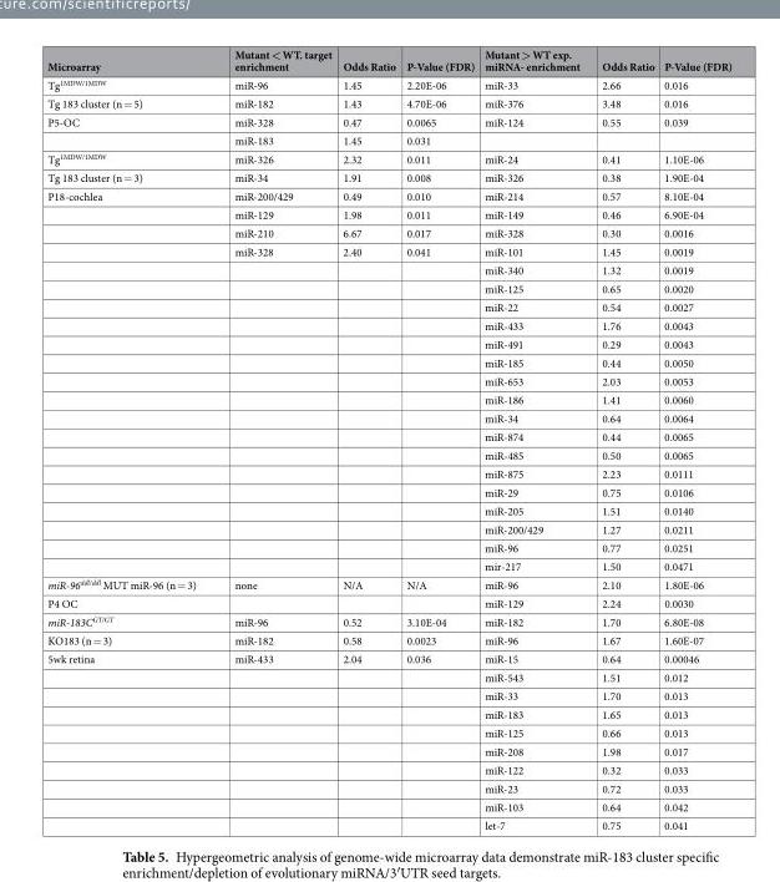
<table><thead><tr><td>Microarray</td><td>Mutant &lt; WT. target enrichment</td><td>Odds Ratio</td><td>P-Value (FDR)</td><td>Mutant &gt; WT exp. miRNA- enrichment</td><td>Odds Ratio</td><td>P-Value (FDR)</td></tr></thead><tbody><tr><td>Tg<sup>1MDW/1MDW</sup></td><td>miR-96</td><td>1.45</td><td>2.20E-06</td><td>miR-33</td><td>2.66</td><td>0.016</td></tr><tr><td>Tg 183 cluster (n = 5)</td><td>miR-182</td><td>1.43</td><td>4.70E-06</td><td>miR-376</td><td>3.48</td><td>0.016</td></tr><tr><td rowspan="2">P5-OC</td><td>miR-328</td><td>0.47</td><td>0.0065</td><td>miR-124</td><td>0.55</td><td>0.039</td></tr><tr><td>miR-183</td><td>1.45</td><td>0.031</td><td></td><td></td><td></td></tr><tr><td>Tg<sup>1MDW/1MDW</sup></td><td>miR-326</td><td>2.32</td><td>0.011</td><td>miR-24</td><td>0.41</td><td>1.10E-06</td></tr><tr><td>Tg 183 cluster (n = 3)</td><td>miR-34</td><td>1.91</td><td>0.008</td><td>miR-326</td><td>0.38</td><td>1.90E-04</td></tr><tr><td rowspan="21">P18-cochlea</td><td>miR-200/429</td><td>0.49</td><td>0.010</td><td>miR-214</td><td>0.57</td><td>8.10E-04</td></tr><tr><td>miR-129</td><td>1.98</td><td>0.011</td><td>miR-149</td><td>0.46</td><td>6.90E-04</td></tr><tr><td>miR-210</td><td>6.67</td><td>0.017</td><td>miR-328</td><td>0.30</td><td>0.0016</td></tr><tr><td>miR-328</td><td>2.40</td><td>0.041</td><td>miR-101</td><td>1.45</td><td>0.0019</td></tr><tr><td></td><td></td><td></td><td>miR-340</td><td>1.32</td><td>0.0019</td></tr><tr><td></td><td></td><td></td><td>miR-125</td><td>0.65</td><td>0.0020</td></tr><tr><td></td><td></td><td></td><td>miR-22</td><td>0.54</td><td>0.0027</td></tr><tr><td></td><td></td><td></td><td>miR-433</td><td>1.76</td><td>0.0043</td></tr><tr><td></td><td></td><td></td><td>miR-491</td><td>0.29</td><td>0.0043</td></tr><tr><td></td><td></td><td></td><td>miR-185</td><td>0.44</td><td>0.0050</td></tr><tr><td></td><td></td><td></td><td>miR-653</td><td>2.03</td><td>0.0053</td></tr><tr><td></td><td></td><td></td><td>miR-186</td><td>1.41</td><td>0.0060</td></tr><tr><td></td><td></td><td></td><td>miR-34</td><td>0.64</td><td>0.0064</td></tr><tr><td></td><td></td><td></td><td>miR-874</td><td>0.44</td><td>0.0065</td></tr><tr><td></td><td></td><td></td><td>miR-485</td><td>0.50</td><td>0.0065</td></tr><tr><td></td><td></td><td></td><td>miR-875</td><td>2.23</td><td>0.0111</td></tr><tr><td></td><td></td><td></td><td>miR-29</td><td>0.75</td><td>0.0106</td></tr><tr><td></td><td></td><td></td><td>miR-205</td><td>1.51</td><td>0.0140</td></tr><tr><td></td><td></td><td></td><td>miR-200/429</td><td>1.27</td><td>0.0211</td></tr><tr><td></td><td></td><td></td><td>miR-96</td><td>0.77</td><td>0.0251</td></tr><tr><td></td><td></td><td></td><td>mir-217</td><td>1.50</td><td>0.0471</td></tr><tr><td>miR-96<sup>ddl/ddl</sup> MUT miR-96 (n = 3)</td><td>none</td><td>N/A</td><td>N/A</td><td>miR-96</td><td>2.10</td><td>1.80E-06</td></tr><tr><td>P4 OC</td><td></td><td></td><td></td><td>miR-129</td><td>2.24</td><td>0.0030</td></tr><tr><td>miR-183C<sup>GT/GT</sup></td><td>miR-96</td><td>0.52</td><td>3.10E-04</td><td>miR-182</td><td>1.70</td><td>6.80E-08</td></tr><tr><td>KO183 (n = 3)</td><td>miR-182</td><td>0.58</td><td>0.0023</td><td>miR-96</td><td>1.67</td><td>1.60E-07</td></tr><tr><td rowspan="10">5wk retina</td><td>miR-433</td><td>2.04</td><td>0.036</td><td>miR-15</td><td>0.64</td><td>0.00046</td></tr><tr><td></td><td></td><td></td><td>miR-543</td><td>1.51</td><td>0.012</td></tr><tr><td></td><td></td><td></td><td>miR-33</td><td>1.70</td><td>0.013</td></tr><tr><td></td><td></td><td></td><td>miR-183</td><td>1.65</td><td>0.013</td></tr><tr><td></td><td></td><td></td><td>miR-125</td><td>0.66</td><td>0.013</td></tr><tr><td></td><td></td><td></td><td>miR-208</td><td>1.98</td><td>0.017</td></tr><tr><td></td><td></td><td></td><td>miR-122</td><td>0.32</td><td>0.033</td></tr><tr><td></td><td></td><td></td><td>miR-23</td><td>0.72</td><td>0.033</td></tr><tr><td></td><td></td><td></td><td>miR-103</td><td>0.64</td><td>0.042</td></tr><tr><td></td><td></td><td></td><td>let-7</td><td>0.75</td><td>0.041</td></tr></tbody></table>